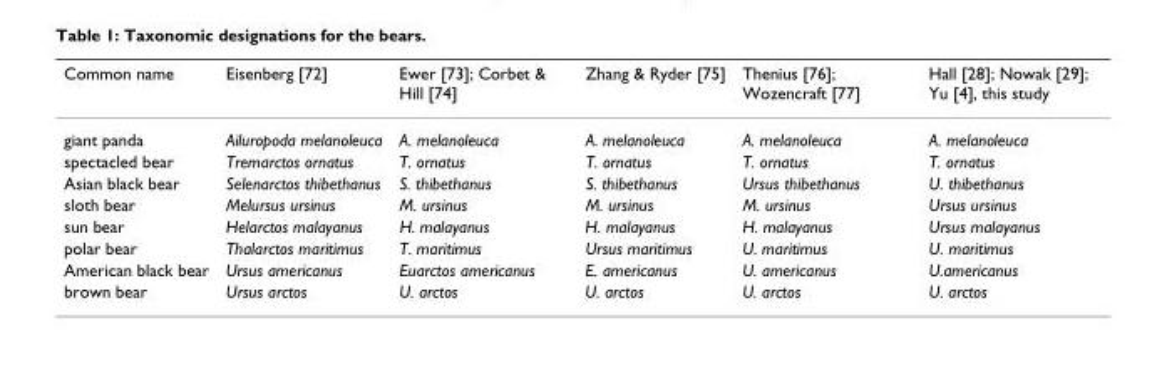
<table><thead><tr><td>Common name</td><td>Eisenberg [72]</td><td>Ewer [73]; Corbet &amp; Hill [74]</td><td>Zhang &amp; Ryder [75]</td><td>Thenius [76]; Wozencraft [77]</td><td>Hall [28]; Nowak [29]; Yu [4], this study</td></tr></thead><tbody><tr><td>giant panda</td><td>Ailuropoda melanoleuca</td><td>A. melanoleuca</td><td>A. melanoleuca</td><td>A. melanoleuca</td><td>A. melanoleuca</td></tr><tr><td>spectacled bear</td><td>Tremarctos ornatus</td><td>T. ornatus</td><td>T. ornatus</td><td>T. ornatus</td><td>T. ornatus</td></tr><tr><td>Asian black bear</td><td>Selenarctos thibethanus</td><td>S. thibethanus</td><td>S. thibethanus</td><td>Ursus thibethanus</td><td>U. thibethanus</td></tr><tr><td>sloth bear</td><td>Melursus ursinus</td><td>M. ursinus</td><td>M. ursinus</td><td>M. ursinus</td><td>Ursus ursinus</td></tr><tr><td>sun bear</td><td>Helarctos malayanus</td><td>H. malayanus</td><td>H. malayanus</td><td>H. malayanus</td><td>Ursus malayanus</td></tr><tr><td>polar bear</td><td>Thalarctos maritimus</td><td>T. maritimus</td><td>Ursus maritimus</td><td>U. maritimus</td><td>U. maritimus</td></tr><tr><td>American black bear</td><td>Ursus americanus</td><td>Euarctos americanus</td><td>E. americanus</td><td>U. americanus</td><td>U.americanus</td></tr><tr><td>brown bear</td><td>Ursus arctos</td><td>U. arctos</td><td>U. arctos</td><td>U. arctos</td><td>U. arctos</td></tr></tbody></table>